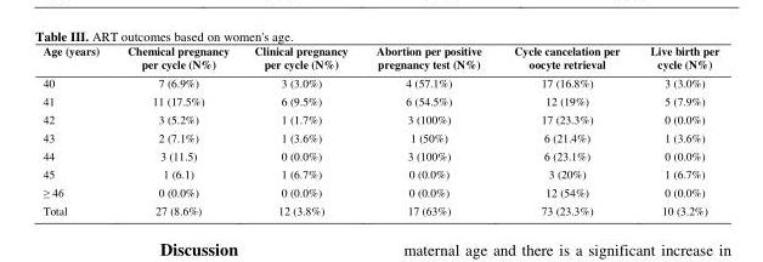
<table><thead><tr><td>Age (years)</td><td>Chemical pregnancy per cycle (N%)</td><td>Clinical pregnancy per cycle (N%)</td><td>Abortion per positive pregnancy test (N%)</td><td>Cycle cancelation per oocyte retrieval</td><td>Live birth per cycle (N%)</td></tr></thead><tbody><tr><td>40</td><td>7 (6.9%)</td><td>3 (3.0%)</td><td>4 (57.1%)</td><td>17 (16.8%)</td><td>3 (3.0%)</td></tr><tr><td>41</td><td>11 (17.5%)</td><td>6 (9.5%)</td><td>6 (54.5%)</td><td>12 (19%)</td><td>5 (7.9%)</td></tr><tr><td>42</td><td>3 (5.2%)</td><td>1 (1.7%)</td><td>3 (100%)</td><td>17 (23.3%)</td><td>0 (0.0%)</td></tr><tr><td>43</td><td>2 (7.1%)</td><td>1 (3.6%)</td><td>1 (50%)</td><td>6 (21.4%)</td><td>1 (3.6%)</td></tr><tr><td>44</td><td>3 (11.5)</td><td>0 (0.0%)</td><td>3 (100%)</td><td>6 (23.1%)</td><td>0 (0.0%)</td></tr><tr><td>45</td><td>1 (6.1)</td><td>1 (6.7%)</td><td>0 (0.0%)</td><td>3 (20%)</td><td>1 (6.7%)</td></tr><tr><td>≥ 46</td><td>0 (0.0%)</td><td>0 (0.0%)</td><td>0 (0.0%)</td><td>12 (54%)</td><td>0 (0.0%)</td></tr><tr><td>Total</td><td>27 (8.6%)</td><td>12 (3.8%)</td><td>17 (63%)</td><td>73 (23.3%)</td><td>10 (3.2%)</td></tr></tbody></table>